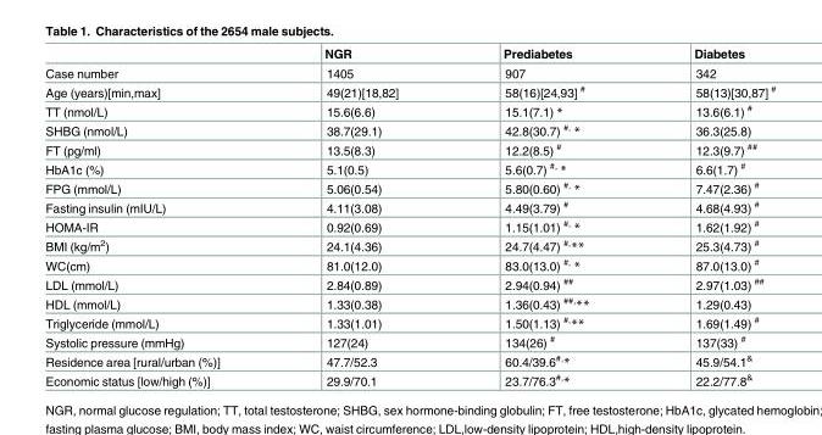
<table><thead><tr><td></td><td>NGR</td><td>Prediabetes</td><td>Diabetes</td></tr></thead><tbody><tr><td>Case number</td><td>1405</td><td>907</td><td>342</td></tr><tr><td>Age (years)[min,max]</td><td>49(21)[18,82]</td><td>58(16)[24,93] <sup>#</sup></td><td>58(13)[30,87] <sup>#</sup></td></tr><tr><td>TT (nmol/L)</td><td>15.6(6.6)</td><td>15.1(7.1) *</td><td>13.6(6.1) <sup>#</sup></td></tr><tr><td>SHBG (nmol/L)</td><td>38.7(29.1)</td><td>42.8(30.7) <sup>#,</sup> *</td><td>36.3(25.8)</td></tr><tr><td>FT (pg/ml)</td><td>13.5(8.3)</td><td>12.2(8.5) <sup>#</sup></td><td>12.3(9.7) <sup>##</sup></td></tr><tr><td>HbA1c (%)</td><td>5.1(0.5)</td><td>5.6(0.7) <sup>#,</sup> *</td><td>6.6(1.7) <sup>#</sup></td></tr><tr><td>FPG (mmol/L)</td><td>5.06(0.54)</td><td>5.80(0.60) <sup>#,</sup> *</td><td>7.47(2.36) <sup>#</sup></td></tr><tr><td>Fasting insulin (mIU/L)</td><td>4.11(3.08)</td><td>4.49(3.79) <sup>#</sup></td><td>4.68(4.93) <sup>#</sup></td></tr><tr><td>HOMA-IR</td><td>0.92(0.69)</td><td>1.15(1.01) <sup>#,</sup> *</td><td>1.62(1.92) <sup>#</sup></td></tr><tr><td>BMI (kg/m<sup>2</sup>)</td><td>24.1(4.36)</td><td>24.7(4.47) <sup>#,</sup>**</td><td>25.3(4.73) <sup>#</sup></td></tr><tr><td>WC(cm)</td><td>81.0(12.0)</td><td>83.0(13.0) <sup>#,</sup> *</td><td>87.0(13.0) <sup>#</sup></td></tr><tr><td>LDL (mmol/L)</td><td>2.84(0.89)</td><td>2.94(0.94) <sup>##</sup></td><td>2.97(1.03) <sup>##</sup></td></tr><tr><td>HDL (mmol/L)</td><td>1.33(0.38)</td><td>1.36(0.43) <sup>##,</sup>**</td><td>1.29(0.43)</td></tr><tr><td>Triglyceride (mmol/L)</td><td>1.33(1.01)</td><td>1.50(1.13) <sup>#,</sup>**</td><td>1.69(1.49) <sup>#</sup></td></tr><tr><td>Systolic pressure (mmHg)</td><td>127(24)</td><td>134(26) <sup>#</sup></td><td>137(33) <sup>#</sup></td></tr><tr><td>Residence area [rural/urban (%)]</td><td>47.7/52.3</td><td>60.4/39.6<sup>#,</sup>*</td><td>45.9/54.1<sup>&amp;</sup></td></tr><tr><td>Economic status [low/high (%)]</td><td>29.9/70.1</td><td>23.7/76.3<sup>#,</sup>*</td><td>22.2/77.8<sup>&amp;</sup></td></tr></tbody></table>